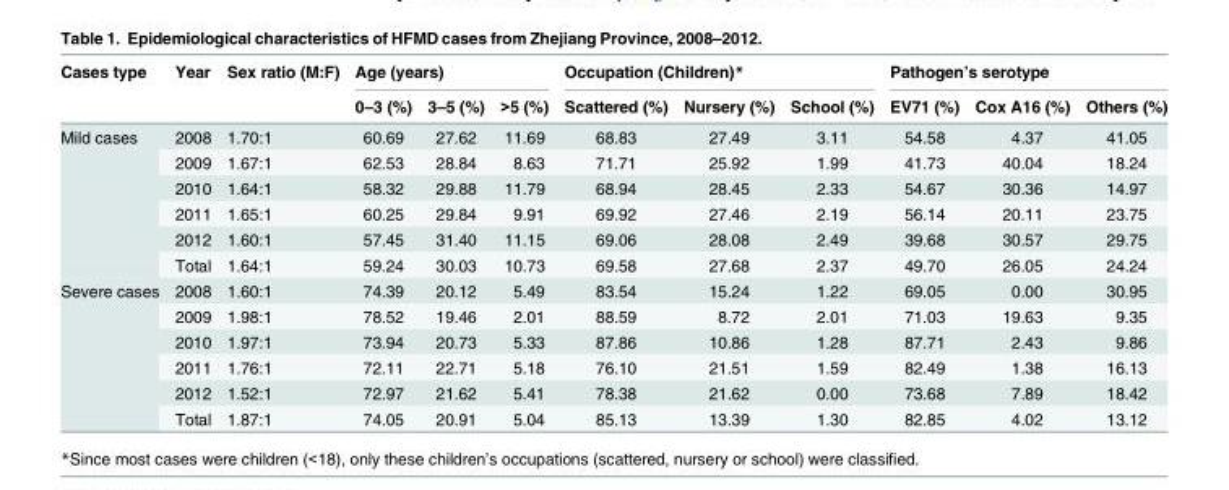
<table><thead><tr><td rowspan="2">Cases type</td><td rowspan="2">Year</td><td rowspan="2">Sex ratio (M:F)</td><td colspan="3">Age (years)</td><td colspan="3">Occupation (Children)*</td><td colspan="3">Pathogen’s serotype</td></tr><tr><td>0–3 (%)</td><td>3–5 (%)</td><td>&gt;5 (%)</td><td>Scattered (%)</td><td>Nursery (%)</td><td>School (%)</td><td>EV71 (%)</td><td>Cox A16 (%)</td><td>Others (%)</td></tr></thead><tbody><tr><td rowspan="6">Mild cases</td><td>2008</td><td>1.70:1</td><td>60.69</td><td>27.62</td><td>11.69</td><td>68.83</td><td>27.49</td><td>3.11</td><td>54.58</td><td>4.37</td><td>41.05</td></tr><tr><td>2009</td><td>1.67:1</td><td>62.53</td><td>28.84</td><td>8.63</td><td>71.71</td><td>25.92</td><td>1.99</td><td>41.73</td><td>40.04</td><td>18.24</td></tr><tr><td>2010</td><td>1.64:1</td><td>58.32</td><td>29.88</td><td>11.79</td><td>68.94</td><td>28.45</td><td>2.33</td><td>54.67</td><td>30.36</td><td>14.97</td></tr><tr><td>2011</td><td>1.65:1</td><td>60.25</td><td>29.84</td><td>9.91</td><td>69.92</td><td>27.46</td><td>2.19</td><td>56.14</td><td>20.11</td><td>23.75</td></tr><tr><td>2012</td><td>1.60:1</td><td>57.45</td><td>31.40</td><td>11.15</td><td>69.06</td><td>28.08</td><td>2.49</td><td>39.68</td><td>30.57</td><td>29.75</td></tr><tr><td>Total</td><td>1.64:1</td><td>59.24</td><td>30.03</td><td>10.73</td><td>69.58</td><td>27.68</td><td>2.37</td><td>49.70</td><td>26.05</td><td>24.24</td></tr><tr><td rowspan="6">Severe cases</td><td>2008</td><td>1.60:1</td><td>74.39</td><td>20.12</td><td>5.49</td><td>83.54</td><td>15.24</td><td>1.22</td><td>69.05</td><td>0.00</td><td>30.95</td></tr><tr><td>2009</td><td>1.98:1</td><td>78.52</td><td>19.46</td><td>2.01</td><td>88.59</td><td>8.72</td><td>2.01</td><td>71.03</td><td>19.63</td><td>9.35</td></tr><tr><td>2010</td><td>1.97:1</td><td>73.94</td><td>20.73</td><td>5.33</td><td>87.86</td><td>10.86</td><td>1.28</td><td>87.71</td><td>2.43</td><td>9.86</td></tr><tr><td>2011</td><td>1.76:1</td><td>72.11</td><td>22.71</td><td>5.18</td><td>76.10</td><td>21.51</td><td>1.59</td><td>82.49</td><td>1.38</td><td>16.13</td></tr><tr><td>2012</td><td>1.52:1</td><td>72.97</td><td>21.62</td><td>5.41</td><td>78.38</td><td>21.62</td><td>0.00</td><td>73.68</td><td>7.89</td><td>18.42</td></tr><tr><td>Total</td><td>1.87:1</td><td>74.05</td><td>20.91</td><td>5.04</td><td>85.13</td><td>13.39</td><td>1.30</td><td>82.85</td><td>4.02</td><td>13.12</td></tr></tbody></table>